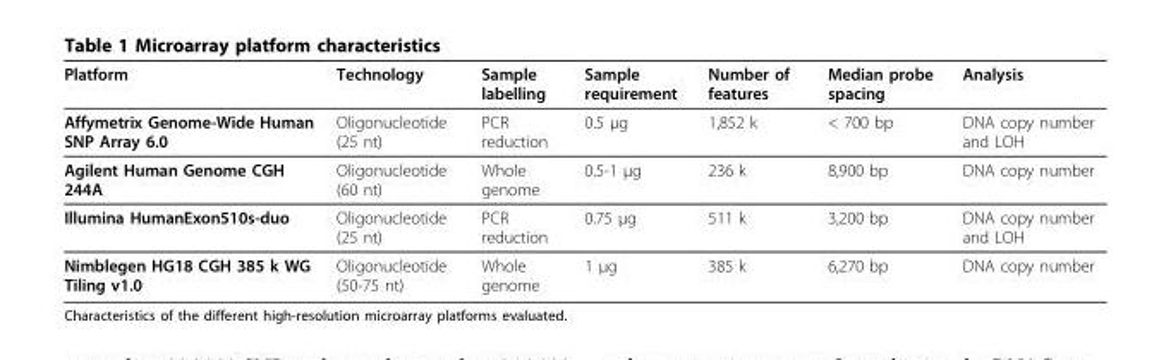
<table><thead><tr><td>Platform</td><td>Technology</td><td>Sample labelling</td><td>Sample requirement</td><td>Number of features</td><td>Median probe spacing</td><td>Analysis</td></tr></thead><tbody><tr><td>Affymetrix Genome-Wide Human SNP Array 6.0</td><td>Oligonucleotide (25 nt)</td><td>PCR reduction</td><td>0.5 μg</td><td>1,852 k</td><td>&lt; 700 bp</td><td>DNA copy number and LOH</td></tr><tr><td>Agilent Human Genome CGH 244A</td><td>Oligonucleotide (60 nt)</td><td>Whole genome</td><td>0.5-1 μg</td><td>236 k</td><td>8,900 bp</td><td>DNA copy number</td></tr><tr><td>Illumina HumanExon510s-duo</td><td>Oligonucleotide (25 nt)</td><td>PCR reduction</td><td>0.75 μg</td><td>511 k</td><td>3,200 bp</td><td>DNA copy number and LOH</td></tr><tr><td>Nimblegen HG18 CGH 385 k WG Tiling v1.0</td><td>Oligonucleotide (50-75 nt)</td><td>Whole genome</td><td>1 μg</td><td>385 k</td><td>6,270 bp</td><td>DNA copy number</td></tr></tbody></table>